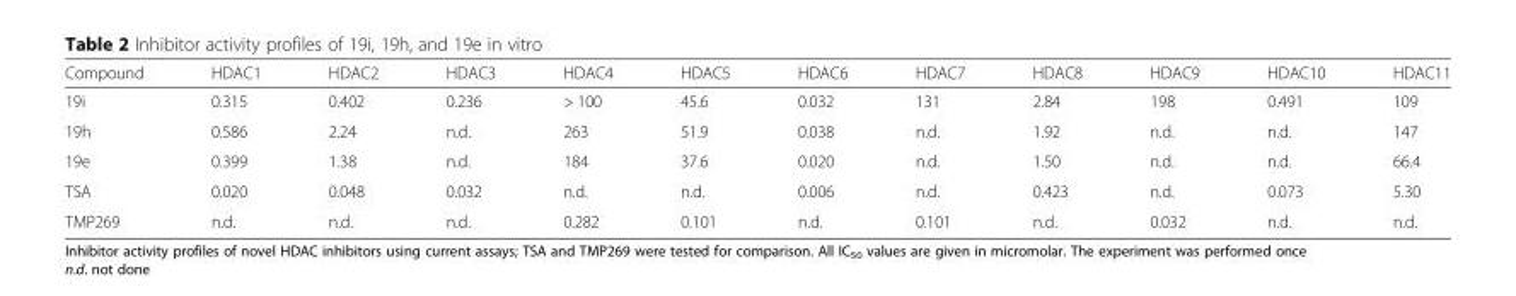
<table><thead><tr><td>Compound</td><td>HDAC1</td><td>HDAC2</td><td>HDAC3</td><td>HDAC4</td><td>HDAC5</td><td>HDAC6</td><td>HDAC7</td><td>HDAC8</td><td>HDAC9</td><td>HDAC10</td><td>HDAC11</td></tr></thead><tbody><tr><td>19i</td><td>0.315</td><td>0.402</td><td>0.236</td><td>&gt; 100</td><td>45.6</td><td>0.032</td><td>131</td><td>2.84</td><td>198</td><td>0.491</td><td>109</td></tr><tr><td>19h</td><td>0.586</td><td>2.24</td><td>n.d.</td><td>263</td><td>51.9</td><td>0.038</td><td>n.d.</td><td>1.92</td><td>n.d.</td><td>n.d.</td><td>147</td></tr><tr><td>19e</td><td>0.399</td><td>1.38</td><td>n.d.</td><td>184</td><td>37.6</td><td>0.020</td><td>n.d.</td><td>1.50</td><td>n.d.</td><td>n.d.</td><td>66.4</td></tr><tr><td>TSA</td><td>0.020</td><td>0.048</td><td>0.032</td><td>n.d.</td><td>n.d.</td><td>0.006</td><td>n.d.</td><td>0.423</td><td>n.d.</td><td>0.073</td><td>5.30</td></tr><tr><td>TMP269</td><td>n.d.</td><td>n.d.</td><td>n.d.</td><td>0.282</td><td>0.101</td><td>n.d.</td><td>0.101</td><td>n.d.</td><td>0.032</td><td>n.d.</td><td>n.d.</td></tr></tbody></table>